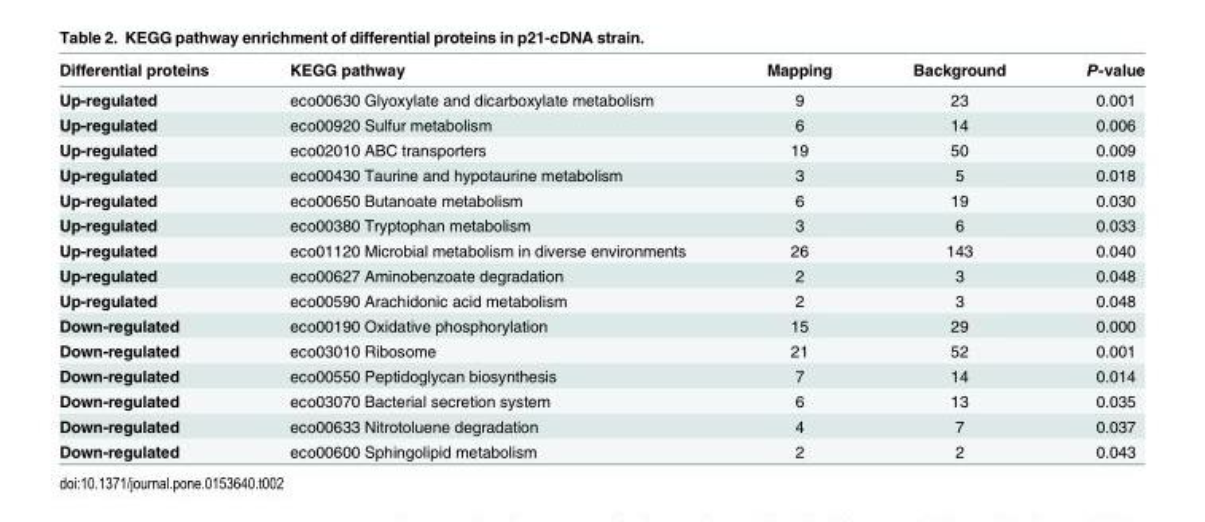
<table><thead><tr><td>Differential proteins</td><td>KEGG pathway</td><td>Mapping</td><td>Background</td><td>P-value</td></tr></thead><tbody><tr><td>Up-regulated</td><td>eco00630 Glyoxylate and dicarboxylate metabolism</td><td>9</td><td>23</td><td>0.001</td></tr><tr><td>Up-regulated</td><td>eco00920 Sulfur metabolism</td><td>6</td><td>14</td><td>0.006</td></tr><tr><td>Up-regulated</td><td>eco02010 ABC transporters</td><td>19</td><td>50</td><td>0.009</td></tr><tr><td>Up-regulated</td><td>eco00430 Taurine and hypotaurine metabolism</td><td>3</td><td>5</td><td>0.018</td></tr><tr><td>Up-regulated</td><td>eco00650 Butanoate metabolism</td><td>6</td><td>19</td><td>0.030</td></tr><tr><td>Up-regulated</td><td>eco00380 Tryptophan metabolism</td><td>3</td><td>6</td><td>0.033</td></tr><tr><td>Up-regulated</td><td>eco01120 Microbial metabolism in diverse environments</td><td>26</td><td>143</td><td>0.040</td></tr><tr><td>Up-regulated</td><td>eco00627 Aminobenzoate degradation</td><td>2</td><td>3</td><td>0.048</td></tr><tr><td>Up-regulated</td><td>eco00590 Arachidonic acid metabolism</td><td>2</td><td>3</td><td>0.048</td></tr><tr><td>Down-regulated</td><td>eco00190 Oxidative phosphorylation</td><td>15</td><td>29</td><td>0.000</td></tr><tr><td>Down-regulated</td><td>eco03010 Ribosome</td><td>21</td><td>52</td><td>0.001</td></tr><tr><td>Down-regulated</td><td>eco00550 Peptidoglycan biosynthesis</td><td>7</td><td>14</td><td>0.014</td></tr><tr><td>Down-regulated</td><td>eco03070 Bacterial secretion system</td><td>6</td><td>13</td><td>0.035</td></tr><tr><td>Down-regulated</td><td>eco00633 Nitrotoluene degradation</td><td>4</td><td>7</td><td>0.037</td></tr><tr><td>Down-regulated</td><td>eco00600 Sphingolipid metabolism</td><td>2</td><td>2</td><td>0.043</td></tr></tbody></table>